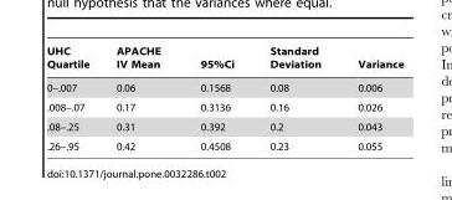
<table><thead><tr><td>UHC Quartile</td><td>APACHE IV Mean</td><td>95%Ci</td><td>Standard Deviation</td><td>Variance</td></tr></thead><tbody><tr><td>0–.007</td><td>0.06</td><td>0.1568</td><td>0.08</td><td>0.006</td></tr><tr><td>.008–.07</td><td>0.17</td><td>0.3136</td><td>0.16</td><td>0.026</td></tr><tr><td>.08–.25</td><td>0.31</td><td>0.392</td><td>0.2</td><td>0.043</td></tr><tr><td>.26–.95</td><td>0.42</td><td>0.4508</td><td>0.23</td><td>0.055</td></tr></tbody></table>